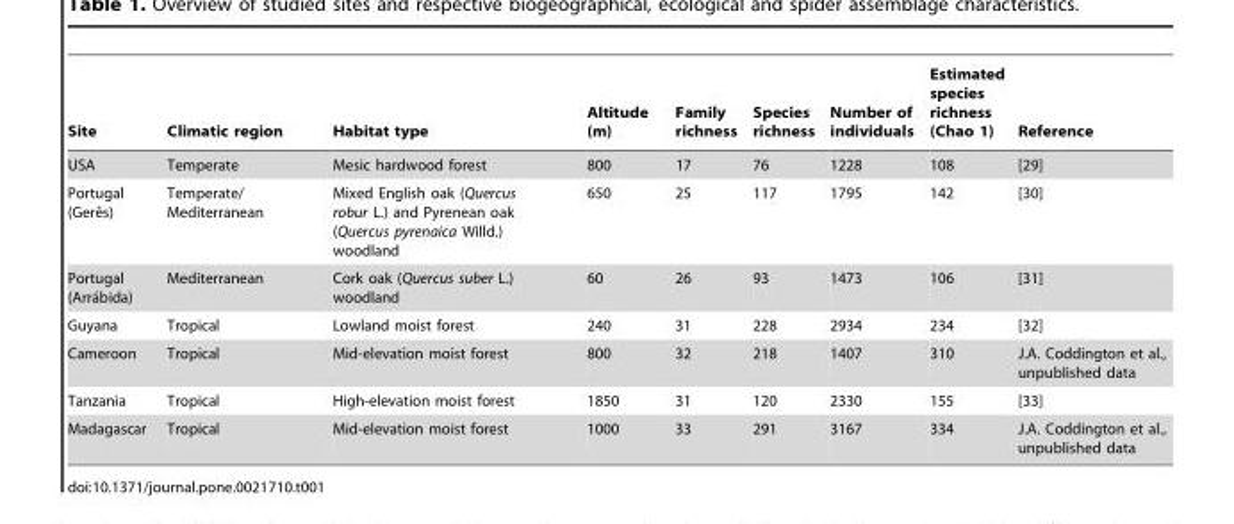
<table><thead><tr><td>Site</td><td>Climatic region</td><td>Habitat type</td><td>Altitude (m)</td><td>Family richness</td><td>Species richness</td><td>Number of individuals</td><td>Estimated species richness (Chao 1)</td><td>Reference</td></tr></thead><tbody><tr><td>USA</td><td>Temperate</td><td>Mesic hardwood forest</td><td>800</td><td>17</td><td>76</td><td>1228</td><td>108</td><td>[29]</td></tr><tr><td>Portugal (Gereˆs)</td><td>Temperate/ Mediterranean</td><td>Mixed English oak (Quercus robur L.) and Pyrenean oak (Quercus pyrenaica Willd.) woodland</td><td>650</td><td>25</td><td>117</td><td>1795</td><td>142</td><td>[30]</td></tr><tr><td>Portugal (Arra´bida)</td><td>Mediterranean</td><td>Cork oak (Quercus suber L.) woodland</td><td>60</td><td>26</td><td>93</td><td>1473</td><td>106</td><td>[31]</td></tr><tr><td>Guyana</td><td>Tropical</td><td>Lowland moist forest</td><td>240</td><td>31</td><td>228</td><td>2934</td><td>234</td><td>[32]</td></tr><tr><td>Cameroon</td><td>Tropical</td><td>Mid-elevation moist forest</td><td>800</td><td>32</td><td>218</td><td>1407</td><td>310</td><td>J.A. Coddington et al., unpublished data</td></tr><tr><td>Tanzania</td><td>Tropical</td><td>High-elevation moist forest</td><td>1850</td><td>31</td><td>120</td><td>2330</td><td>155</td><td>[33]</td></tr><tr><td>Madagascar</td><td>Tropical</td><td>Mid-elevation moist forest</td><td>1000</td><td>33</td><td>291</td><td>3167</td><td>334</td><td>J.A. Coddington et al., unpublished data</td></tr></tbody></table>